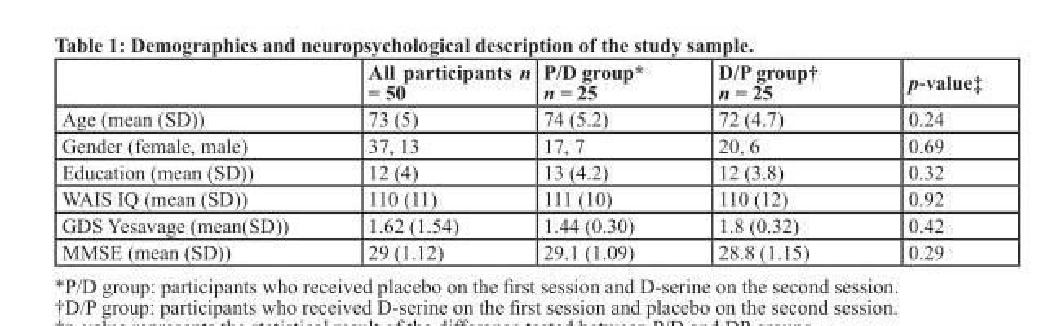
<table><thead><tr><td></td><td>All participants n = 50</td><td>P/D group* n = 25</td><td>D/P group† n = 25</td><td>p-value‡</td></tr></thead><tbody><tr><td>Age (mean (SD))</td><td>73 (5)</td><td>74 (5.2)</td><td>72 (4.7)</td><td>0.24</td></tr><tr><td>Gender (female, male)</td><td>37, 13</td><td>17, 7</td><td>20, 6</td><td>0.69</td></tr><tr><td>Education (mean (SD))</td><td>12 (4)</td><td>13 (4.2)</td><td>12 (3.8)</td><td>0.32</td></tr><tr><td>WAIS IQ (mean (SD))</td><td>110 (11)</td><td>111 (10)</td><td>110 (12)</td><td>0.92</td></tr><tr><td>GDS Yesavage (mean(SD))</td><td>1.62 (1.54)</td><td>1.44 (0.30)</td><td>1.8 (0.32)</td><td>0.42</td></tr><tr><td>MMSE (mean (SD))</td><td>29 (1.12)</td><td>29.1 (1.09)</td><td>28.8 (1.15)</td><td>0.29</td></tr></tbody></table>